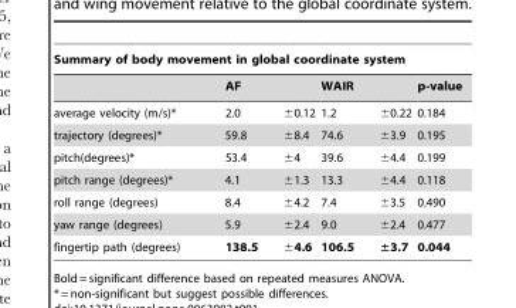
<table><thead><tr><td colspan="6">Summary of body movement in global coordinate system</td></tr><tr><td rowspan="2">average velocity (m/s)*</td><td colspan="2">AF</td><td colspan="2">WAIR</td><td rowspan="2">p-value 0.184</td></tr><tr><td>2.0</td><td>±0.12</td><td>1.2</td><td>±0.22</td></tr></thead><tbody><tr><td>trajectory (degrees)*</td><td>59.8</td><td>±8.4</td><td>74.6</td><td>±3.9</td><td>0.195</td></tr><tr><td>pitch(degrees)*</td><td>53.4</td><td>±4</td><td>39.6</td><td>±4.4</td><td>0.199</td></tr><tr><td>pitch range (degrees)*</td><td>4.1</td><td>±1.3</td><td>13.3</td><td>±4.4</td><td>0.118</td></tr><tr><td>roll range (degrees)</td><td>8.4</td><td>±4.2</td><td>7.4</td><td>±3.5</td><td>0.490</td></tr><tr><td>yaw range (degrees)</td><td>5.9</td><td>±2.4</td><td>9.0</td><td>±2.4</td><td>0.477</td></tr><tr><td>fingertip path (degrees)</td><td>138.5</td><td>±4.6</td><td>106.5</td><td>±3.7</td><td>0.044</td></tr></tbody></table>